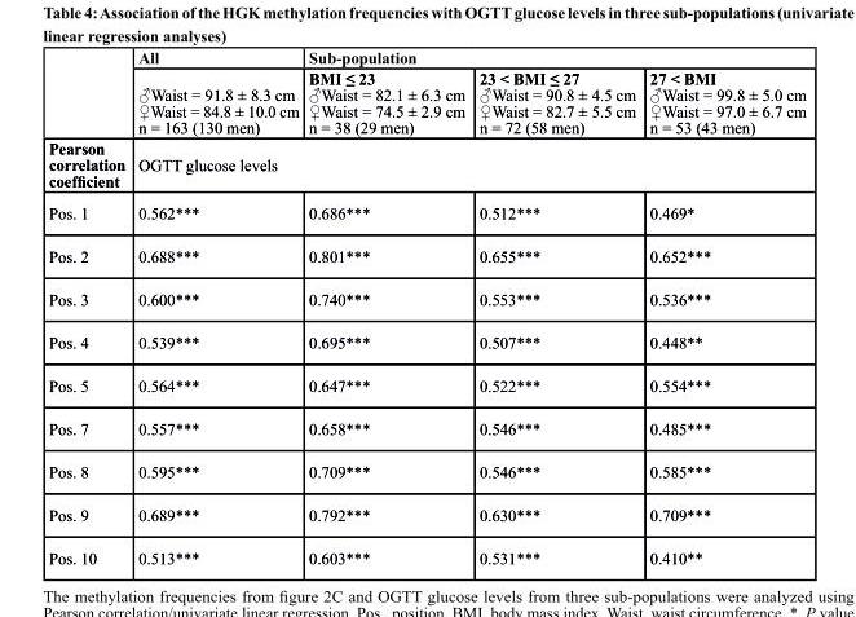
<table><thead><tr><td rowspan="2"></td><td rowspan="2">All ♂Waist = 91.8 ± 8.3 cm ♀Waist = 84.8 ± 10.0 cm n = 163 (130 men)</td><td colspan="3">sub-population</td></tr><tr><td>BMI ≤ 23 ♂Waist = 82.1 ± 6.3 cm ♀Waist = 74.5 ± 2.9 cm n = 38 (29 men)</td><td>23 &lt; BMI ≤ 27 ♂Waist = 90.8 ± 4.5 cm ♀Waist = 82.7 ± 5.5 cm n = 72 (58 men)</td><td>27 &lt; BMI ♂Waist = 99.8 ± 5.0 cm ♀Waist = 97.0 ± 6.7 cm n = 53 (43 men)</td></tr></thead><tbody><tr><td>Pearson correlation coefficient</td><td colspan="4">OGTT glucose levels</td></tr><tr><td>Pos. 1</td><td>0.562***</td><td>0.686***</td><td>0.512***</td><td>0.469*</td></tr><tr><td>Pos. 2</td><td>0.688***</td><td>0.801***</td><td>0.655***</td><td>0.652***</td></tr><tr><td>Pos. 3</td><td>0.600***</td><td>0.740***</td><td>0.553***</td><td>0.536***</td></tr><tr><td>Pos. 4</td><td>0.539***</td><td>0.695***</td><td>0.507***</td><td>0.448**</td></tr><tr><td>Pos. 5</td><td>0.564***</td><td>0.647***</td><td>0.522***</td><td>0.554***</td></tr><tr><td>Pos. 7</td><td>0.557***</td><td>0.658***</td><td>0.546***</td><td>0.485***</td></tr><tr><td>Pos. 8</td><td>0.595***</td><td>0.709***</td><td>0.546***</td><td>0.585***</td></tr><tr><td>Pos. 9</td><td>0.689***</td><td>0.792***</td><td>0.630***</td><td>0.709***</td></tr><tr><td>Pos. 10</td><td>0.513***</td><td>0.603***</td><td>0.531***</td><td>0.410**</td></tr></tbody></table>